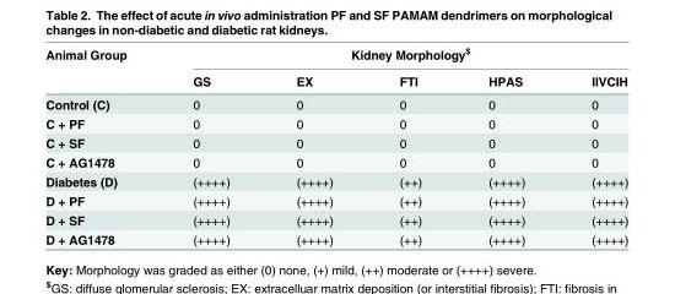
<table><thead><tr><td rowspan="2">Animal Group</td><td colspan="5">Kidney Morphology<sup>$</sup></td></tr><tr><td>GS</td><td>EX</td><td>FTI</td><td>HPAS</td><td>IIVCIH</td></tr></thead><tbody><tr><td>Control (C)</td><td>0</td><td>0</td><td>0</td><td>0</td><td>0</td></tr><tr><td>C + PF</td><td>0</td><td>0</td><td>0</td><td>0</td><td>0</td></tr><tr><td>C + SF</td><td>0</td><td>0</td><td>0</td><td>0</td><td>0</td></tr><tr><td>C + AG1478</td><td>0</td><td>0</td><td>0</td><td>0</td><td>0</td></tr><tr><td>Diabetes (D)</td><td>(++++)</td><td>(++++)</td><td>(++)</td><td>(++++)</td><td>(++++)</td></tr><tr><td>D + PF</td><td>(++++)</td><td>(++++)</td><td>(++)</td><td>(++++)</td><td>(++++)</td></tr><tr><td>D + SF</td><td>(++++)</td><td>(++++)</td><td>(++)</td><td>(++++)</td><td>(++++)</td></tr><tr><td>D + AG1478</td><td>(++++)</td><td>(++++)</td><td>(++)</td><td>(++++)</td><td>(++++)</td></tr></tbody></table>